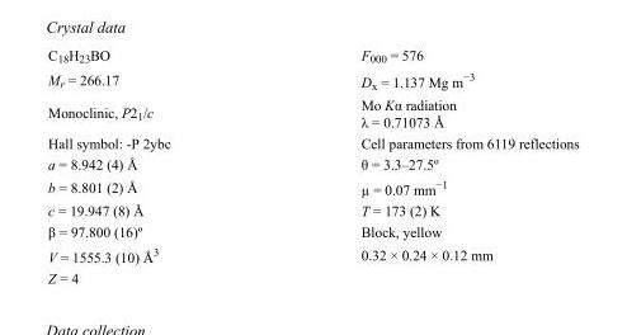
<table><tbody><tr><td>C<sub>18</sub>H<sub>23</sub>BO</td><td>F<sub>000</sub> = 576</td></tr><tr><td>M<sub>r</sub> = 266.17</td><td>D<sub>x</sub> = 1.137 Mg m<sup>−3</sup></td></tr><tr><td>Monoclinic, P2<sub>1</sub>/c</td><td>Mo Kα radiation λ = 0.71073 Å</td></tr><tr><td>Hall symbol: -P 2ybc</td><td>Cell parameters from 6119 reflections</td></tr><tr><td>a = 8.942 (4) Å</td><td>θ = 3.3–27.5º</td></tr><tr><td>b = 8.801 (2) Å</td><td>µ = 0.07 mm<sup>−1</sup></td></tr><tr><td>c = 19.947 (8) Å</td><td>T = 173 (2) K</td></tr><tr><td>β = 97.800 (16)º</td><td>Block, yellow</td></tr><tr><td>V = 1555.3 (10) Å<sup>3</sup></td><td>0.32 × 0.24 × 0.12 mm</td></tr><tr><td>Z = 4</td><td></td></tr></tbody></table>